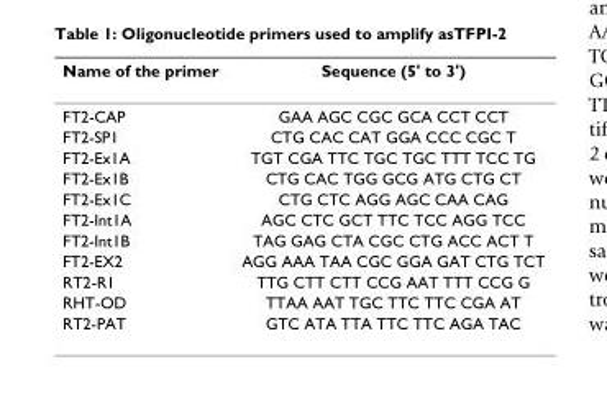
<table><thead><tr><td>Name of the primer</td><td>Sequence (5&#x27; to 3&#x27;)</td></tr></thead><tbody><tr><td>FT2-CAP</td><td>GAA AGC CGC GCA CCT CCT</td></tr><tr><td>FT2-SP1</td><td>CTG CAC CAT GGA CCC CGC T</td></tr><tr><td>FT2-Ex1A</td><td>TGT CGA TTC TGC TGC TTT TCC TG</td></tr><tr><td>FT2-Ex1B</td><td>CTG CAC TGG GCG ATG CTG CT</td></tr><tr><td>FT2-Ex1C</td><td>CTG CTC AGG AGC CAA CAG</td></tr><tr><td>FT2-Int1A</td><td>AGC CTC GCT TTC TCC AGG TCC</td></tr><tr><td>FT2-Int1B</td><td>TAG GAG CTA CGC CTG ACC ACT T</td></tr><tr><td>FT2-EX2</td><td>AGG AAA TAA CGC GGA GAT CTG TCT</td></tr><tr><td>RT2-R1</td><td>TTG CTT CTT CCG AAT TTT CCG G</td></tr><tr><td>RHT-OD</td><td>TTAA AAT TGC TTC TTC CGA AT</td></tr><tr><td>RT2-PAT</td><td>GTC ATA TTA TTC TTC AGA TAC</td></tr></tbody></table>